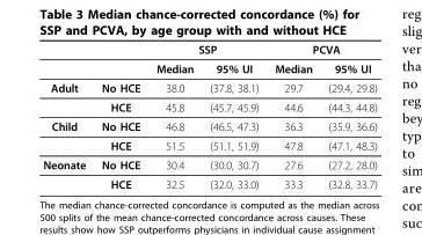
<table><thead><tr><td rowspan="2"></td><td rowspan="2"></td><td colspan="2">SSP</td><td colspan="2">PCVA</td></tr><tr><td>Median</td><td>95% UI</td><td>Median</td><td>95% UI</td></tr></thead><tbody><tr><td rowspan="2">Adult</td><td>No HCE</td><td>38.0</td><td>(37.8, 38.1)</td><td>29.7</td><td>(29.4, 29.8)</td></tr><tr><td>HCE</td><td>45.8</td><td>(45.7, 45.9)</td><td>44.6</td><td>(44.3, 44.8)</td></tr><tr><td rowspan="2">Child</td><td>No HCE</td><td>46.8</td><td>(46.5, 47.3)</td><td>36.3</td><td>(35.9, 36.6)</td></tr><tr><td>HCE</td><td>51.5</td><td>(51.1, 51.9)</td><td>47.8</td><td>(47.1, 48.3)</td></tr><tr><td rowspan="2">Neonate</td><td>No HCE</td><td>30.4</td><td>(30.0, 30.7)</td><td>27.6</td><td>(27.2, 28.0)</td></tr><tr><td>HCE</td><td>32.5</td><td>(32.0, 33.0)</td><td>33.3</td><td>(32.8, 33.7)</td></tr></tbody></table>